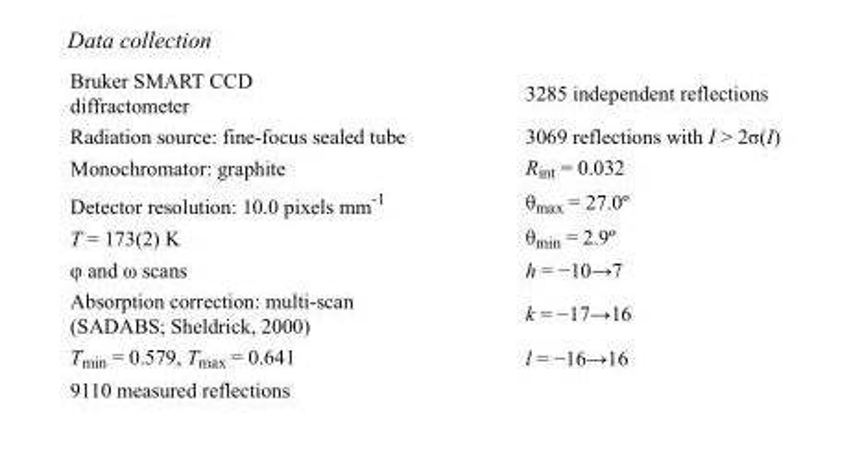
<table><tbody><tr><td>Bruker SMART CCD diffractometer</td><td>3285 independent reflections</td></tr><tr><td>Radiation source: fine-focus sealed tube</td><td>3069 reflections with I &gt; 2σ(I)</td></tr><tr><td>Monochromator: graphite</td><td>R<sub>int</sub> = 0.032</td></tr><tr><td>Detector resolution: 10.0 pixels mm<sup>-1</sup></td><td>θ<sub>max</sub> = 27.0º</td></tr><tr><td>T = 173(2) K</td><td>θ<sub>min</sub> = 2.9º</td></tr><tr><td>φ and ω scans</td><td>h = −10→7</td></tr><tr><td>Absorption correction: multi-scan (SADABS; Sheldrick, 2000)</td><td>k = −17→16</td></tr><tr><td>T<sub>min</sub> = 0.579, T<sub>max</sub> = 0.641</td><td>l = −16→16</td></tr><tr><td>9110 measured reflections</td><td></td></tr></tbody></table>